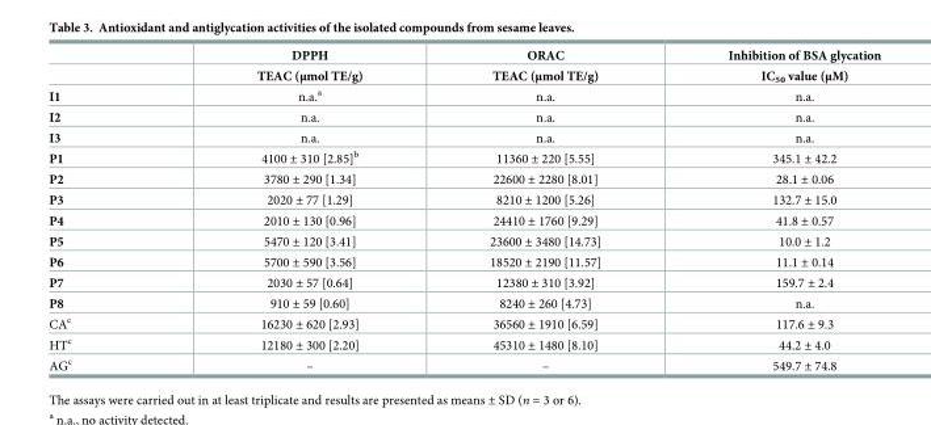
<table><thead><tr><td rowspan="2"></td><td rowspan="2">DPPH TEAC (μmol TE/g)</td><td rowspan="2">ORAC TEAC (μmol TE/g)</td><td rowspan="2">Inhibition of BSA glycation IC<sub>50</sub> value (μM)</td></tr><tr></tr></thead><tbody><tr><td>I1</td><td>n.a.<sup>a</sup></td><td>n.a.</td><td>n.a.</td></tr><tr><td>I2</td><td>n.a.</td><td>n.a.</td><td>n.a.</td></tr><tr><td>I3</td><td>n.a.</td><td>n.a.</td><td>n.a.</td></tr><tr><td>P1</td><td>4100 ± 310 [2.85]<sup>b</sup></td><td>11360 ± 220 [5.55]</td><td>345.1 ± 42.2</td></tr><tr><td>P2</td><td>3780 ± 290 [1.34]</td><td>22600 ± 2280 [8.01]</td><td>28.1 ± 0.06</td></tr><tr><td>P3</td><td>2020 ± 77 [1.29]</td><td>8210 ± 1200 [5.26]</td><td>132.7 ± 15.0</td></tr><tr><td>P4</td><td>2010 ± 130 [0.96]</td><td>24410 ± 1760 [9.29]</td><td>41.8 ± 0.57</td></tr><tr><td>P5</td><td>5470 ± 120 [3.41]</td><td>23600 ± 3480 [14.73]</td><td>10.0 ± 1.2</td></tr><tr><td>P6</td><td>5700 ± 590 [3.56]</td><td>18520 ± 2190 [11.57]</td><td>11.1 ± 0.14</td></tr><tr><td>P7</td><td>2030 ± 57 [0.64]</td><td>12380 ± 310 [3.92]</td><td>159.7 ± 2.4</td></tr><tr><td>P8</td><td>910 ± 59 [0.60]</td><td>8240 ± 260 [4.73]</td><td>n.a.</td></tr><tr><td>CA<sup>c</sup></td><td>16230 ± 620 [2.93]</td><td>36560 ± 1910 [6.59]</td><td>117.6 ± 9.3</td></tr><tr><td>HT<sup>c</sup></td><td>12180 ± 300 [2.20]</td><td>45310 ± 1480 [8.10]</td><td>44.2 ± 4.0</td></tr><tr><td>AG<sup>c</sup></td><td>–</td><td>–</td><td>549.7 ± 74.8</td></tr></tbody></table>